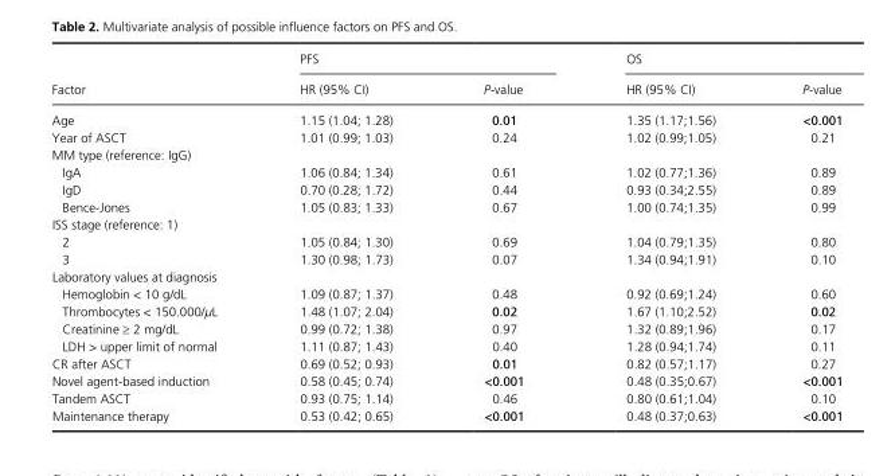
<table><thead><tr><td rowspan="2">Factor</td><td colspan="2">PFS</td><td colspan="2">OS</td></tr><tr><td>HR (95% CI)</td><td>P- value</td><td>HR (95% CI)</td><td>P- value</td></tr></thead><tbody><tr><td>Age</td><td>1.15 (1.04; 1.28)</td><td>0.01</td><td>1.35 (1.17;1.56)</td><td>&lt;0.001</td></tr><tr><td>Year of ASCT</td><td>1.01 (0.99; 1.03)</td><td>0.24</td><td>1.02 (0.99;1.05)</td><td>0.21</td></tr><tr><td colspan="5">MM type (reference: IgG)</td></tr><tr><td>IgA</td><td>1.06 (0.84; 1.34)</td><td>0.61</td><td>1.02 (0.77;1.36)</td><td>0.89</td></tr><tr><td>IgD</td><td>0.70 (0.28; 1.72)</td><td>0.44</td><td>0.93 (0.34;2.55)</td><td>0.89</td></tr><tr><td>Bence- Jones</td><td>1.05 (0.83; 1.33)</td><td>0.67</td><td>1.00 (0.74;1.35)</td><td>0.99</td></tr><tr><td colspan="5">ISS stage (reference: 1)</td></tr><tr><td>2</td><td>1.05 (0.84; 1.30)</td><td>0.69</td><td>1.04 (0.79;1.35)</td><td>0.80</td></tr><tr><td>3</td><td>1.30 (0.98; 1.73)</td><td>0.07</td><td>1.34 (0.94;1.91)</td><td>0.10</td></tr><tr><td colspan="5">Laboratory values at diagnosis</td></tr><tr><td>Hemoglobin &lt; 10 g/dL</td><td>1.09 (0.87; 1.37)</td><td>0.48</td><td>0.92 (0.69;1.24)</td><td>0.60</td></tr><tr><td>Thrombocytes &lt; 150.000/μL</td><td>1.48 (1.07; 2.04)</td><td>0.02</td><td>1.67 (1.10;2.52)</td><td>0.02</td></tr><tr><td>Creatinine ≥ 2 mg/dL</td><td>0.99 (0.72; 1.38)</td><td>0.97</td><td>1.32 (0.89;1.96)</td><td>0.17</td></tr><tr><td>LDH &gt; upper limit of normal</td><td>1.11 (0.87; 1.43)</td><td>0.40</td><td>1.28 (0.94;1.74)</td><td>0.11</td></tr><tr><td>CR after ASCT</td><td>0.69 (0.52; 0.93)</td><td>0.01</td><td>0.82 (0.57;1.17)</td><td>0.27</td></tr><tr><td>Novel agent- based induction</td><td>0.58 (0.45; 0.74)</td><td>&lt;0.001</td><td>0.48 (0.35;0.67)</td><td>&lt;0.001</td></tr><tr><td>Tandem ASCT</td><td>0.93 (0.75; 1.14)</td><td>0.46</td><td>0.80 (0.61;1.04)</td><td>0.10</td></tr><tr><td>Maintenance therapy</td><td>0.53 (0.42; 0.65)</td><td>&lt;0.001</td><td>0.48 (0.37;0.63)</td><td>&lt;0.001</td></tr></tbody></table>